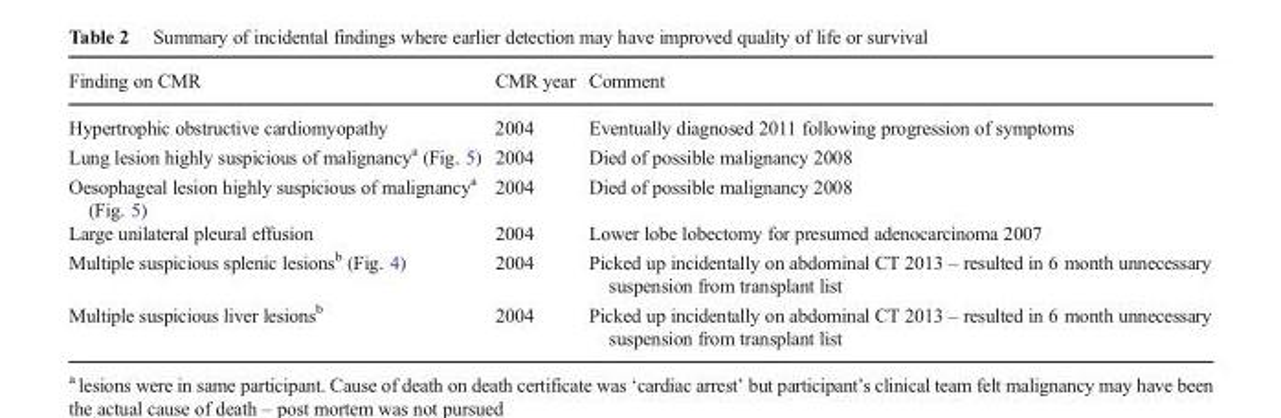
<table><thead><tr><td>Finding on CMR</td><td>CMR year</td><td>Comment</td></tr></thead><tbody><tr><td>Hypertrophic obstructive cardiomyopathy</td><td>2004</td><td>Eventually diagnosed 2011 following progression of symptoms</td></tr><tr><td>Lung lesion highly suspicious of malignancy<sup>a</sup> (Fig. 5)</td><td>2004</td><td>Died of possible malignancy 2008</td></tr><tr><td>Oesophageal lesion highly suspicious of malignancy<sup>a</sup> (Fig. 5)</td><td>2004</td><td>Died of possible malignancy 2008</td></tr><tr><td>Large unilateral pleural effusion</td><td>2004</td><td>Lower lobe lobectomy for presumed adenocarcinoma 2007</td></tr><tr><td>Multiple suspicious splenic lesions<sup>b</sup> (Fig. 4)</td><td>2004</td><td>Picked up incidentally on abdominal CT 2013 – resulted in 6 month unnecessary suspension from transplant list</td></tr><tr><td>Multiple suspicious liver lesions<sup>b</sup></td><td>2004</td><td>Picked up incidentally on abdominal CT 2013 – resulted in 6 month unnecessary suspension from transplant list</td></tr></tbody></table>